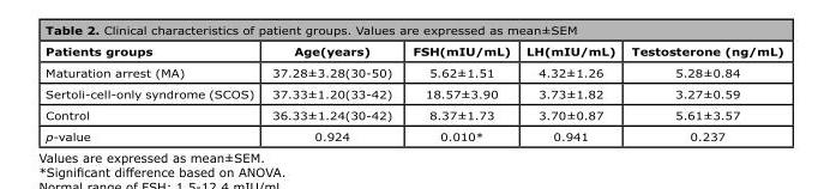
<table><thead><tr><td>Patients groups</td><td>Age(years)</td><td>FSH(mIU/mL)</td><td>LH(mIU/mL)</td><td>Testosterone (ng/mL)</td></tr></thead><tbody><tr><td>Maturation arrest (MA)</td><td>37.28±3.28(30-50)</td><td>5.62±1.51</td><td>4.32±1.26</td><td>5.28±0.84</td></tr><tr><td>Sertoli-cell-only syndrome (SCOS)</td><td>37.33±1.20(33-42)</td><td>18.57±3.90</td><td>3.73±1.82</td><td>3.27±0.59</td></tr><tr><td>Control</td><td>36.33±1.24(30-42)</td><td>8.37±1.73</td><td>3.70±0.87</td><td>5.61±3.57</td></tr><tr><td>p-value</td><td>0.924</td><td>0.010*</td><td>0.941</td><td>0.237</td></tr></tbody></table>